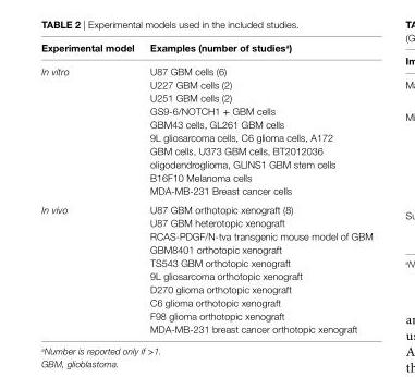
<table><thead><tr><td>experimental model</td><td>examples (number of studies<sup>a</sup>)</td></tr></thead><tbody><tr><td>In vitro</td><td>U87 GBM cells (6) U227 GBM cells (2) U251 GBM cells (2) GS9-6/NOTCH1 + GBM cells GBM43 cells, GL261 GBM cells 9L gliosarcoma cells, C6 glioma cells, A172 GBM cells, U373 GBM cells, BT2012036 oligodendroglioma, GLINS1 GBM stem cells B16F10 Melanoma cells MDA-MB-231 Breast cancer cells</td></tr><tr><td>In vivo</td><td>U87 GBM orthotopic xenograft (8) U87 GBM heterotopic xenograft RCAS-PDGF/N-tva transgenic mouse model of GBM GBM8401 orthotopic xenograft TS543 GBM orthotopic xenograft 9L gliosarcoma orthotopic xenograft D270 glioma orthotopic xenograft C6 glioma orthotopic xenograft F98 glioma orthotopic xenograft MDA-MB-231 breast cancer orthotopic xenograft</td></tr></tbody></table>